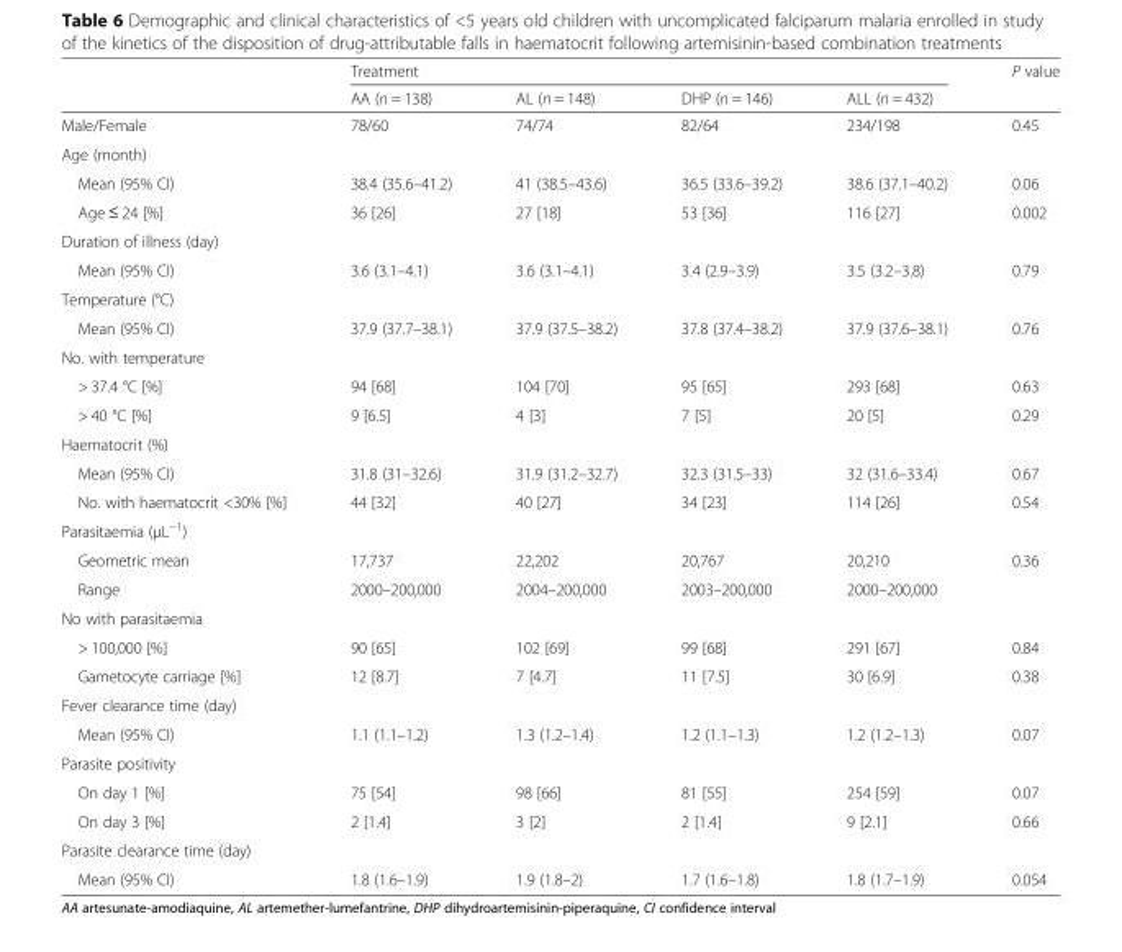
<table><thead><tr><td rowspan="2"></td><td colspan="4">Treatment</td><td rowspan="2">P value</td></tr><tr><td>AA (n = 138)</td><td>AL (n = 148)</td><td>DHP (n = 146)</td><td>ALL (n = 432)</td></tr></thead><tbody><tr><td>Male/Female</td><td>78/60</td><td>74/74</td><td>82/64</td><td>234/198</td><td>0.45</td></tr><tr><td colspan="6">Age (month)</td></tr><tr><td>Mean (95% CI)</td><td>38.4 (35.6–41.2)</td><td>41 (38.5–43.6)</td><td>36.5 (33.6–39.2)</td><td>38.6 (37.1–40.2)</td><td>0.06</td></tr><tr><td>Age ≤ 24 [%]</td><td>36 [26]</td><td>27 [18]</td><td>53 [36]</td><td>116 [27]</td><td>0.002</td></tr><tr><td colspan="6">Duration of illness (day)</td></tr><tr><td>Mean (95% CI)</td><td>3.6 (3.1–4.1)</td><td>3.6 (3.1–4.1)</td><td>3.4 (2.9–3.9)</td><td>3.5 (3.2–3.8)</td><td>0.79</td></tr><tr><td colspan="6">Temperature (°C)</td></tr><tr><td>Mean (95% CI)</td><td>37.9 (37.7–38.1)</td><td>37.9 (37.5–38.2)</td><td>37.8 (37.4–38.2)</td><td>37.9 (37.6–38.1)</td><td>0.76</td></tr><tr><td colspan="6">No. with temperature</td></tr><tr><td>&gt; 37.4 °C [%]</td><td>94 [68]</td><td>104 [70]</td><td>95 [65]</td><td>293 [68]</td><td>0.63</td></tr><tr><td>&gt; 40 °C [%]</td><td>9 [6.5]</td><td>4 [3]</td><td>7 [5]</td><td>20 [5]</td><td>0.29</td></tr><tr><td colspan="6">Haematocrit (%)</td></tr><tr><td>Mean (95% CI)</td><td>31.8 (31–32.6)</td><td>31.9 (31.2–32.7)</td><td>32.3 (31.5–33)</td><td>32 (31.6–33.4)</td><td>0.67</td></tr><tr><td>No. with haematocrit &lt;30% [%]</td><td>44 [32]</td><td>40 [27]</td><td>34 [23]</td><td>114 [26]</td><td>0.54</td></tr><tr><td colspan="6">Parasitaemia (μL<sup>−1</sup>)</td></tr><tr><td>Geometric mean</td><td>17,737</td><td>22,202</td><td>20,767</td><td>20,210</td><td>0.36</td></tr><tr><td>Range</td><td>2000–200,000</td><td>2004–200,000</td><td>2003–200,000</td><td>2000–200,000</td><td></td></tr><tr><td colspan="6">No with parasitaemia</td></tr><tr><td>&gt; 100,000 [%]</td><td>90 [65]</td><td>102 [69]</td><td>99 [68]</td><td>291 [67]</td><td>0.84</td></tr><tr><td>Gametocyte carriage [%]</td><td>12 [8.7]</td><td>7 [4.7]</td><td>11 [7.5]</td><td>30 [6.9]</td><td>0.38</td></tr><tr><td colspan="6">Fever clearance time (day)</td></tr><tr><td>Mean (95% CI)</td><td>1.1 (1.1–1.2)</td><td>1.3 (1.2–1.4)</td><td>1.2 (1.1–1.3)</td><td>1.2 (1.2–1.3)</td><td>0.07</td></tr><tr><td colspan="6">Parasite positivity</td></tr><tr><td>On day 1 [%]</td><td>75 [54]</td><td>98 [66]</td><td>81 [55]</td><td>254 [59]</td><td>0.07</td></tr><tr><td>On day 3 [%]</td><td>2 [1.4]</td><td>3 [2]</td><td>2 [1.4]</td><td>9 [2.1]</td><td>0.66</td></tr><tr><td colspan="6">Parasite clearance time (day)</td></tr><tr><td>Mean (95% CI)</td><td>1.8 (1.6–1.9)</td><td>1.9 (1.8–2)</td><td>1.7 (1.6–1.8)</td><td>1.8 (1.7–1.9)</td><td>0.054</td></tr></tbody></table>